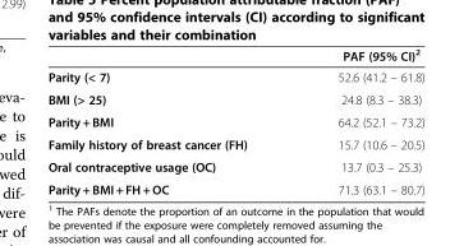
<table><thead><tr><td></td><td>PAF (95% CI)<sup>2</sup></td></tr></thead><tbody><tr><td>Parity (&lt; 7)</td><td>52.6 (41.2 – 61.8)</td></tr><tr><td>BMI (&gt; 25)</td><td>24.8 (8.3 – 38.3)</td></tr><tr><td>Parity + BMI</td><td>64.2 (52.1 – 73.2)</td></tr><tr><td>Family history of breast cancer (FH)</td><td>15.7 (10.6 – 20.5)</td></tr><tr><td>Oral contraceptive usage (OC)</td><td>13.7 (0.3 – 25.3)</td></tr><tr><td>Parity + BMI + FH + OC</td><td>71.3 (63.1 – 80.7)</td></tr></tbody></table>